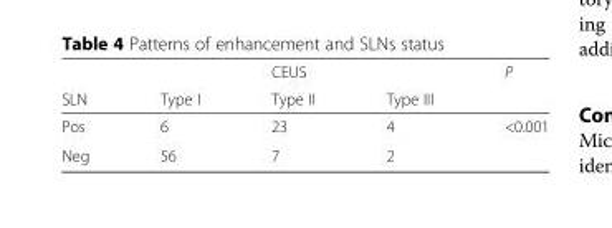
<table><thead><tr><td rowspan="2">SLN</td><td rowspan="2">Type I</td><td rowspan="2">CEUS Type II</td><td rowspan="2">Type III</td><td rowspan="2">P</td></tr><tr></tr></thead><tbody><tr><td>Pos</td><td>6</td><td>23</td><td>4</td><td rowspan="2">&lt;0.001</td></tr><tr><td>Neg</td><td>56</td><td>7</td><td>2</td></tr></tbody></table>